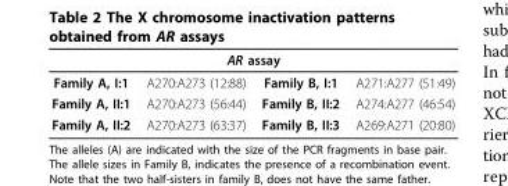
<table><thead><tr><td colspan="4">AR assay</td></tr><tr><td>Family A, I:1</td><td>A270:A273 (12:88)</td><td>Family B, I:1</td><td>A271:A277 (51:49)</td></tr></thead><tbody><tr><td>Family A, II:1</td><td>A270:A273 (56:44)</td><td>Family B, II:2</td><td>A274:A277 (46:54)</td></tr><tr><td>Family A, II:2</td><td>A270:A273 (63:37)</td><td>Family B, II:3</td><td>A269:A271 (20:80)</td></tr></tbody></table>